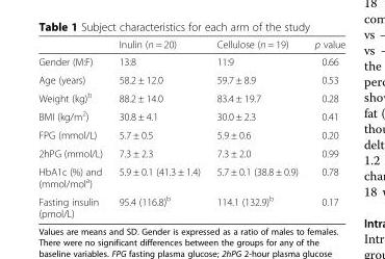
<table><thead><tr><td></td><td>Inulin (n = 20)</td><td>Cellulose (n = 19)</td><td>p value</td></tr></thead><tbody><tr><td>Gender (M:F)</td><td>13:8</td><td>11:9</td><td>0.66</td></tr><tr><td>Age (years)</td><td>58.2 ± 12.0</td><td>59.7 ± 8.9</td><td>0.53</td></tr><tr><td>Weight (kg)<sup>b</sup></td><td>88.2 ± 14.0</td><td>83.4 ± 19.7</td><td>0.28</td></tr><tr><td>BMI (kg/m<sup>2</sup>)</td><td>30.8 ± 4.1</td><td>30.0 ± 2.3</td><td>0.41</td></tr><tr><td>FPG (mmol/L)</td><td>5.7 ± 0.5</td><td>5.9 ± 0.6</td><td>0.20</td></tr><tr><td>2hPG (mmol/L)</td><td>7.3 ± 2.3</td><td>7.3 ± 2.0</td><td>0.99</td></tr><tr><td>HbA1c (%) and (mmol/mol<sup>a</sup>)</td><td>5.9 ± 0.1 (41.3 ± 1.4)</td><td>5.7 ± 0.1 (38.8 ± 0.9)</td><td>0.78</td></tr><tr><td>Fasting insulin (pmol/L)</td><td>95.4 (116.8)<sup>b</sup></td><td>114.1 (132.9)<sup>b</sup></td><td>0.17</td></tr></tbody></table>